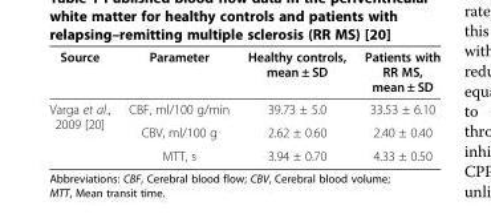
<table><thead><tr><td>Source</td><td>Parameter</td><td>Healthy controls, mean ± SD</td><td>Patients with RR MS, mean ± SD</td></tr></thead><tbody><tr><td rowspan="3">Varga et al., 2009 [20]</td><td>CBF, ml/100 g/min</td><td>39.73 ± 5.0</td><td>33.53 ± 6.10</td></tr><tr><td>CBV, ml/100 g</td><td>2.62 ± 0.60</td><td>2.40 ± 0.40</td></tr><tr><td>MTT, s</td><td>3.94 ± 0.70</td><td>4.33 ± 0.50</td></tr></tbody></table>